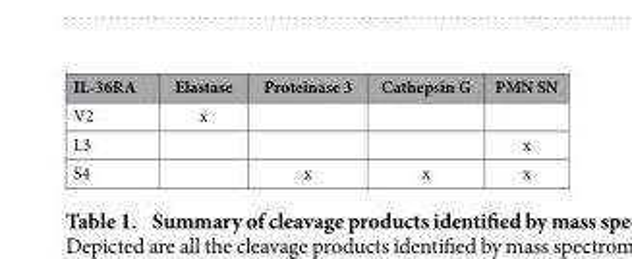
<table><thead><tr><td>IL-36RA</td><td>Elastase</td><td>Proteinase 3</td><td>Cathepsin G</td><td>PMN SN</td></tr></thead><tbody><tr><td>V2</td><td>x</td><td></td><td></td><td></td></tr><tr><td>L3</td><td></td><td></td><td></td><td>x</td></tr><tr><td>S4</td><td></td><td>x</td><td>x</td><td>x</td></tr></tbody></table>